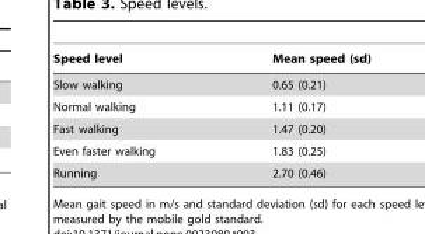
<table><thead><tr><td>Speed level</td><td>Mean speed (sd)</td></tr></thead><tbody><tr><td>Slow walking</td><td>0.65 (0.21)</td></tr><tr><td>Normal walking</td><td>1.11 (0.17)</td></tr><tr><td>Fast walking</td><td>1.47 (0.20)</td></tr><tr><td>Even faster walking</td><td>1.83 (0.25)</td></tr><tr><td>Running</td><td>2.70 (0.46)</td></tr></tbody></table>